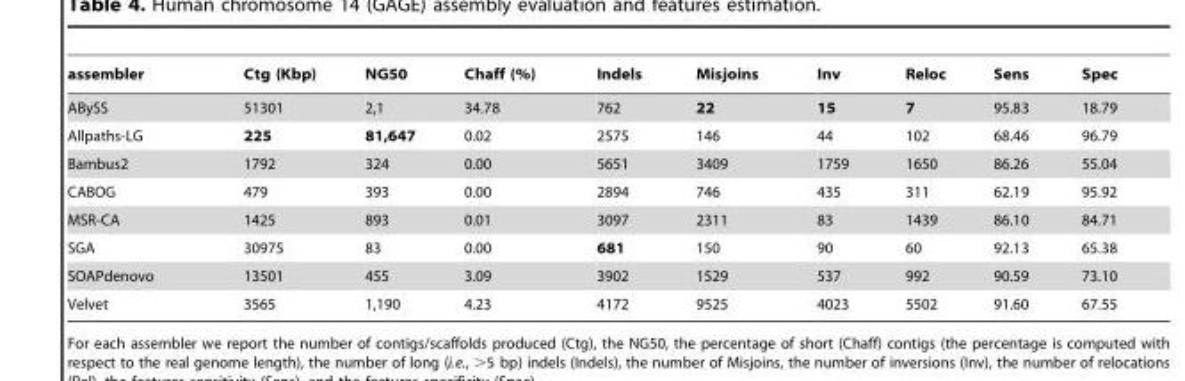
<table><thead><tr><td>assembler</td><td>Ctg (Kbp)</td><td>NG50</td><td>Chaff (%)</td><td>Indels</td><td>Misjoins</td><td>Inv</td><td>Reloc</td><td>Sens</td><td>Spec</td></tr></thead><tbody><tr><td>ABySS</td><td>51301</td><td>2,1</td><td>34.78</td><td>762</td><td>22</td><td>15</td><td>7</td><td>95.83</td><td>18.79</td></tr><tr><td>Allpaths-LG</td><td>225</td><td>81,647</td><td>0.02</td><td>2575</td><td>146</td><td>44</td><td>102</td><td>68.46</td><td>96.79</td></tr><tr><td>Bambus2</td><td>1792</td><td>324</td><td>0.00</td><td>5651</td><td>3409</td><td>1759</td><td>1650</td><td>86.26</td><td>55.04</td></tr><tr><td>CABOG</td><td>479</td><td>393</td><td>0.00</td><td>2894</td><td>746</td><td>435</td><td>311</td><td>62.19</td><td>95.92</td></tr><tr><td>MSR-CA</td><td>1425</td><td>893</td><td>0.01</td><td>3097</td><td>2311</td><td>83</td><td>1439</td><td>86.10</td><td>84.71</td></tr><tr><td>SGA</td><td>30975</td><td>83</td><td>0.00</td><td>681</td><td>150</td><td>90</td><td>60</td><td>92.13</td><td>65.38</td></tr><tr><td>SOAPdenovo</td><td>13501</td><td>455</td><td>3.09</td><td>3902</td><td>1529</td><td>537</td><td>992</td><td>90.59</td><td>73.10</td></tr><tr><td>Velvet</td><td>3565</td><td>1,190</td><td>4.23</td><td>4172</td><td>9525</td><td>4023</td><td>5502</td><td>91.60</td><td>67.55</td></tr></tbody></table>